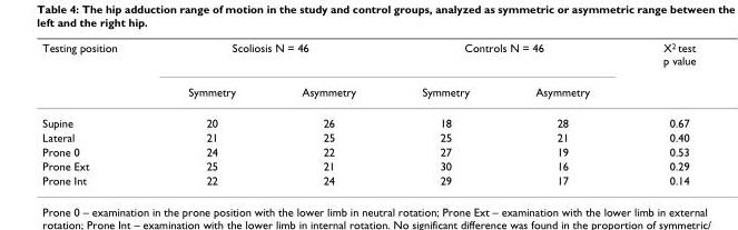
<table><thead><tr><td rowspan="2">Testing position</td><td colspan="2">Scoliosis N = 46</td><td colspan="2">Controls N = 46</td><td rowspan="2">X<sup>2</sup> test p value</td></tr><tr><td>Symmetry</td><td>Asymmetry</td><td>Symmetry</td><td>Asymmetry</td></tr></thead><tbody><tr><td>Supine</td><td>20</td><td>26</td><td>18</td><td>28</td><td>0.67</td></tr><tr><td>Lateral</td><td>21</td><td>25</td><td>25</td><td>21</td><td>0.40</td></tr><tr><td>Prone 0</td><td>24</td><td>22</td><td>27</td><td>19</td><td>0.53</td></tr><tr><td>Prone Ext</td><td>25</td><td>21</td><td>30</td><td>16</td><td>0.29</td></tr><tr><td>Prone Int</td><td>22</td><td>24</td><td>29</td><td>17</td><td>0.14</td></tr></tbody></table>